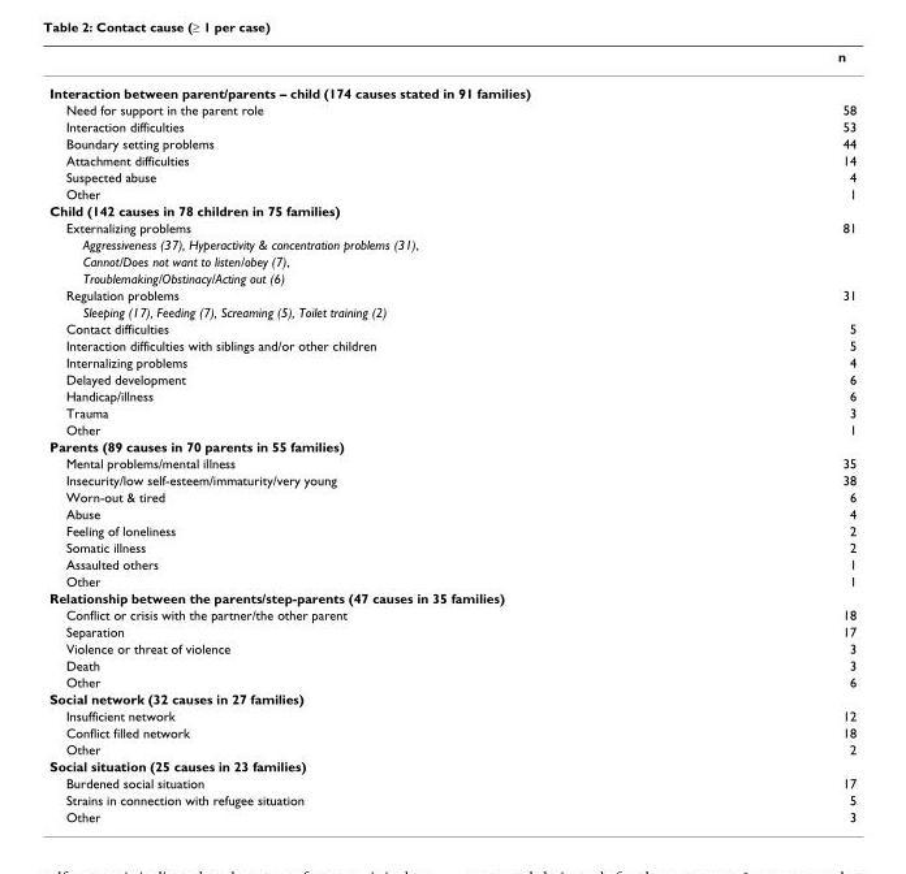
<table><thead><tr><td></td><td>n</td></tr></thead><tbody><tr><td colspan="2">Interaction between parent/parents – child (174 causes stated in 91 families)</td></tr><tr><td>Need for support in the parent role</td><td>58</td></tr><tr><td>Interaction difficulties</td><td>53</td></tr><tr><td>Boundary setting problems</td><td>44</td></tr><tr><td>Attachment difficulties</td><td>14</td></tr><tr><td>Suspected abuse</td><td>4</td></tr><tr><td>Other</td><td>1</td></tr><tr><td colspan="2">Child (142 causes in 78 children in 75 families)</td></tr><tr><td>Externalizing problems</td><td>81</td></tr><tr><td colspan="2">Aggressiveness (37), Hyperactivity &amp; concentration problems (31),</td></tr><tr><td colspan="2">Cannot/Does not want to listen/obey (7),</td></tr><tr><td colspan="2">Troublemaking/Obstinacy/Acting out (6)</td></tr><tr><td>Regulation problems</td><td>31</td></tr><tr><td colspan="2">Sleeping (17), Feeding (7), Screaming (5), Toilet training (2)</td></tr><tr><td>Contact difficulties</td><td>5</td></tr><tr><td>Interaction difficulties with siblings and/or other children</td><td>5</td></tr><tr><td>Internalizing problems</td><td>4</td></tr><tr><td>Delayed development</td><td>6</td></tr><tr><td>Handicap/illness</td><td>6</td></tr><tr><td>Trauma</td><td>3</td></tr><tr><td>Other</td><td>1</td></tr><tr><td colspan="2">Parents (89 causes in 70 parents in 55 families)</td></tr><tr><td>Mental problems/mental illness</td><td>35</td></tr><tr><td>Insecurity/low self-esteem/immaturity/very young</td><td>38</td></tr><tr><td>Worn-out &amp; tired</td><td>6</td></tr><tr><td>Abuse</td><td>4</td></tr><tr><td>Feeling of loneliness</td><td>2</td></tr><tr><td>Somatic illness</td><td>2</td></tr><tr><td>Assaulted others</td><td>1</td></tr><tr><td>Other</td><td>1</td></tr><tr><td colspan="2">Relationship between the parents/step-parents (47 causes in 35 families)</td></tr><tr><td>Conflict or crisis with the partner/the other parent</td><td>18</td></tr><tr><td>Separation</td><td>17</td></tr><tr><td>Violence or threat of violence</td><td>3</td></tr><tr><td>Death</td><td>3</td></tr><tr><td>Other</td><td>6</td></tr><tr><td colspan="2">Social network (32 causes in 27 families)</td></tr><tr><td>Insufficient network</td><td>12</td></tr><tr><td>Conflict filled network</td><td>18</td></tr><tr><td>Other</td><td>2</td></tr><tr><td colspan="2">Social situation (25 causes in 23 families)</td></tr><tr><td>Burdened social situation</td><td>17</td></tr><tr><td>Strains in connection with refugee situation</td><td>5</td></tr><tr><td>Other</td><td>3</td></tr></tbody></table>